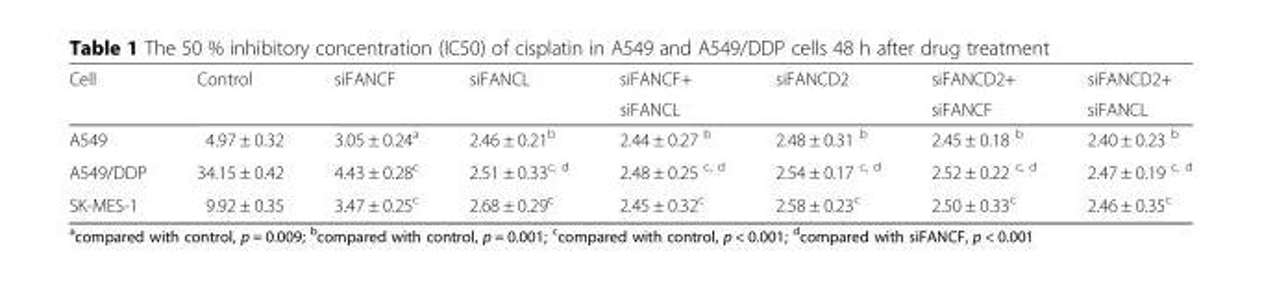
<table><thead><tr><td rowspan="2">Cell</td><td rowspan="2">Control</td><td rowspan="2">siFANCF</td><td rowspan="2">siFANCL</td><td rowspan="2">siFANCF+ siFANCL</td><td rowspan="2">siFANCD2</td><td rowspan="2">siFANCD2+ siFANCF</td><td rowspan="2">siFANCD2+ siFANCL</td></tr><tr></tr></thead><tbody><tr><td>A549</td><td>4.97 ± 0.32</td><td>3.05 ± 0.24a</td><td>2.46 ± 0.21b</td><td>2.44 ± 0.27 b</td><td>2.48 ± 0.31 b</td><td>2.45 ± 0.18 b</td><td>2.40 ± 0.23 b</td></tr><tr><td>A549/DDP</td><td>34.15 ± 0.42</td><td>4.43 ± 0.28c</td><td>2.51 ± 0.33c, d</td><td>2.48 ± 0.25 c, d</td><td>2.54 ± 0.17 c, d</td><td>2.52 ± 0.22 c, d</td><td>2.47 ± 0.19 c, d</td></tr><tr><td>SK-MES-1</td><td>9.92 ± 0.35</td><td>3.47 ± 0.25c</td><td>2.68 ± 0.29c</td><td>2.45 ± 0.32c</td><td>2.58 ± 0.23c</td><td>2.50 ± 0.33c</td><td>2.46 ± 0.35c</td></tr></tbody></table>